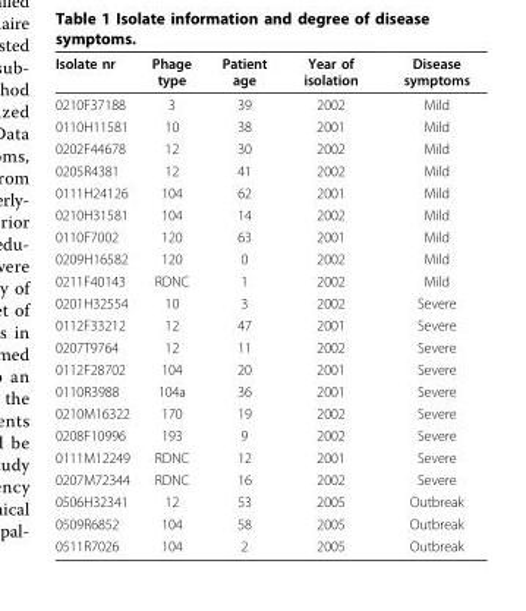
<table><thead><tr><td>Isolate nr</td><td>Phage type</td><td>Patient age</td><td>Year of isolation</td><td>Disease symptoms</td></tr></thead><tbody><tr><td>0210F37188</td><td>3</td><td>39</td><td>2002</td><td>Mild</td></tr><tr><td>0110H11581</td><td>10</td><td>38</td><td>2001</td><td>Mild</td></tr><tr><td>0202F44678</td><td>12</td><td>30</td><td>2002</td><td>Mild</td></tr><tr><td>0205R4381</td><td>12</td><td>41</td><td>2002</td><td>Mild</td></tr><tr><td>0111H24126</td><td>104</td><td>62</td><td>2001</td><td>Mild</td></tr><tr><td>0210H31581</td><td>104</td><td>14</td><td>2002</td><td>Mild</td></tr><tr><td>0110F7002</td><td>120</td><td>63</td><td>2001</td><td>Mild</td></tr><tr><td>0209H16582</td><td>120</td><td>0</td><td>2002</td><td>Mild</td></tr><tr><td>0211F40143</td><td>RDNC</td><td>1</td><td>2002</td><td>Mild</td></tr><tr><td>0201H32554</td><td>10</td><td>3</td><td>2002</td><td>Severe</td></tr><tr><td>0112F33212</td><td>12</td><td>47</td><td>2001</td><td>Severe</td></tr><tr><td>0207T9764</td><td>12</td><td>11</td><td>2002</td><td>Severe</td></tr><tr><td>0112F28702</td><td>104</td><td>20</td><td>2001</td><td>Severe</td></tr><tr><td>0110R3988</td><td>104a</td><td>36</td><td>2001</td><td>Severe</td></tr><tr><td>0210M16322</td><td>170</td><td>19</td><td>2002</td><td>Severe</td></tr><tr><td>0208F10996</td><td>193</td><td>9</td><td>2002</td><td>Severe</td></tr><tr><td>0111M12249</td><td>RDNC</td><td>12</td><td>2001</td><td>Severe</td></tr><tr><td>0207M72344</td><td>RDNC</td><td>16</td><td>2002</td><td>Severe</td></tr><tr><td>0506H32341</td><td>12</td><td>53</td><td>2005</td><td>Outbreak</td></tr><tr><td>0509R6852</td><td>104</td><td>58</td><td>2005</td><td>Outbreak</td></tr><tr><td>0511R7026</td><td>104</td><td>2</td><td>2005</td><td>Outbreak</td></tr></tbody></table>